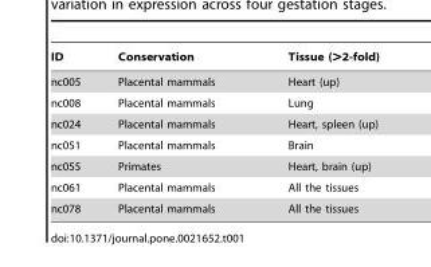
<table><thead><tr><td>ID</td><td>Conservation</td><td>Tissue (&gt;2-fold)</td></tr></thead><tbody><tr><td>nc005</td><td>Placental mammals</td><td>Heart (up)</td></tr><tr><td>nc008</td><td>Placental mammals</td><td>Lung</td></tr><tr><td>nc024</td><td>Placental mammals</td><td>Heart, spleen (up)</td></tr><tr><td>nc051</td><td>Placental mammals</td><td>Brain</td></tr><tr><td>nc055</td><td>Primates</td><td>Heart, brain (up)</td></tr><tr><td>nc061</td><td>Placental mammals</td><td>All the tissues</td></tr><tr><td>nc078</td><td>Placental mammals</td><td>All the tissues</td></tr></tbody></table>